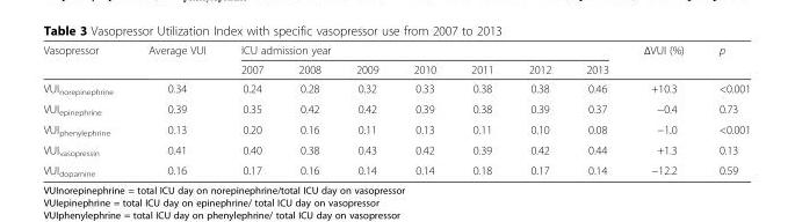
<table><thead><tr><td rowspan="2">Vasopressor</td><td rowspan="2">Average VUI</td><td colspan="7">ICU admission year</td><td rowspan="2">ΔVUI (%)</td><td rowspan="2">p</td></tr><tr><td>2007</td><td>2008</td><td>2009</td><td>2010</td><td>2011</td><td>2012</td><td>2013</td></tr></thead><tbody><tr><td>VUI<sub>norepinephrine</sub></td><td>0.34</td><td>0.24</td><td>0.28</td><td>0.32</td><td>0.33</td><td>0.38</td><td>0.38</td><td>0.46</td><td>+10.3</td><td>&lt;0.001</td></tr><tr><td>VUI<sub>epinephrine</sub></td><td>0.39</td><td>0.35</td><td>0.42</td><td>0.42</td><td>0.39</td><td>0.38</td><td>0.39</td><td>0.37</td><td>−0.4</td><td>0.73</td></tr><tr><td>VUI<sub>phenylephrine</sub></td><td>0.13</td><td>0.20</td><td>0.16</td><td>0.11</td><td>0.13</td><td>0.11</td><td>0.10</td><td>0.08</td><td>−1.0</td><td>&lt;0.001</td></tr><tr><td>VUI<sub>vasopressin</sub></td><td>0.41</td><td>0.40</td><td>0.38</td><td>0.43</td><td>0.42</td><td>0.39</td><td>0.42</td><td>0.44</td><td>+1.3</td><td>0.13</td></tr><tr><td>VUI<sub>dopamine</sub></td><td>0.16</td><td>0.17</td><td>0.16</td><td>0.14</td><td>0.14</td><td>0.18</td><td>0.17</td><td>0.14</td><td>−12.2</td><td>0.59</td></tr></tbody></table>